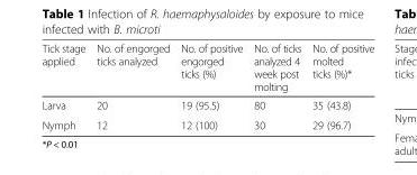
<table><thead><tr><td>Tick stage applied</td><td>No. of engorged ticks analyzed</td><td>No. of positive engorged ticks (%)</td><td>No. of ticks analyzed 4 week post molting</td><td>No. of positive molted ticks (%)*</td></tr></thead><tbody><tr><td>Larva</td><td>20</td><td>19 (95.5)</td><td>80</td><td>35 (43.8)</td></tr><tr><td>Nymph</td><td>12</td><td>12 (100)</td><td>30</td><td>29 (96.7)</td></tr></tbody></table>